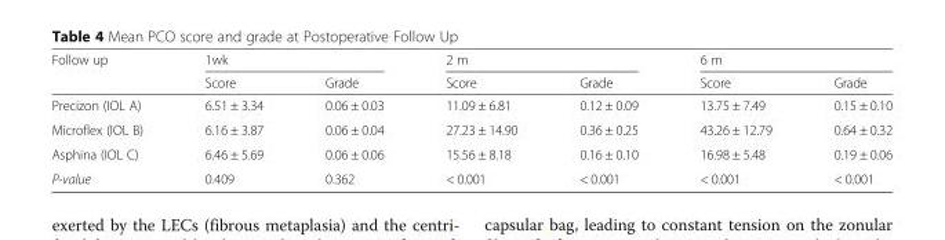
<table><thead><tr><td rowspan="2">Follow up</td><td colspan="2">1wk</td><td colspan="2">2 m</td><td colspan="2">6 m</td></tr><tr><td>Score</td><td>Grade</td><td>Score</td><td>Grade</td><td>Score</td><td>Grade</td></tr></thead><tbody><tr><td>Precizon (IOL A)</td><td>6.51 ± 3.34</td><td>0.06 ± 0.03</td><td>11.09 ± 6.81</td><td>0.12 ± 0.09</td><td>13.75 ± 7.49</td><td>0.15 ± 0.10</td></tr><tr><td>Microflex (IOL B)</td><td>6.16 ± 3.87</td><td>0.06 ± 0.04</td><td>27.23 ± 14.90</td><td>0.36 ± 0.25</td><td>43.26 ± 12.79</td><td>0.64 ± 0.32</td></tr><tr><td>Asphina (IOL C)</td><td>6.46 ± 5.69</td><td>0.06 ± 0.06</td><td>15.56 ± 8.18</td><td>0.16 ± 0.10</td><td>16.98 ± 5.48</td><td>0.19 ± 0.06</td></tr><tr><td>P-value</td><td>0.409</td><td>0.362</td><td>&lt; 0.001</td><td>&lt; 0.001</td><td>&lt; 0.001</td><td>&lt; 0.001</td></tr></tbody></table>